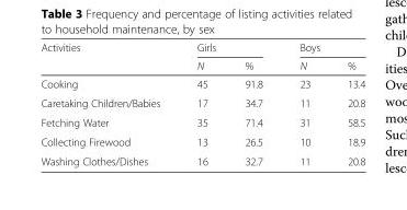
<table><thead><tr><td rowspan="2">Activities</td><td colspan="2">Girls</td><td colspan="2">Boys</td></tr><tr><td>N</td><td>%</td><td>N</td><td>%</td></tr></thead><tbody><tr><td>Cooking</td><td>45</td><td>91.8</td><td>23</td><td>13.4</td></tr><tr><td>Caretaking Children/Babies</td><td>17</td><td>34.7</td><td>11</td><td>20.8</td></tr><tr><td>Fetching Water</td><td>35</td><td>71.4</td><td>31</td><td>58.5</td></tr><tr><td>Collecting Firewood</td><td>13</td><td>26.5</td><td>10</td><td>18.9</td></tr><tr><td>Washing Clothes/Dishes</td><td>16</td><td>32.7</td><td>11</td><td>20.8</td></tr></tbody></table>